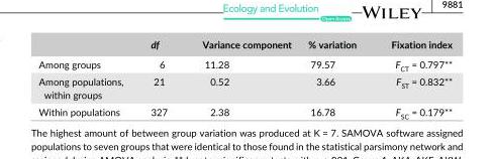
<table><thead><tr><td></td><td>df</td><td>Variance component</td><td>% variation</td><td>Fixation index</td></tr></thead><tbody><tr><td>Among groups</td><td>6</td><td>11.28</td><td>79.57</td><td>F<sub>CT</sub> = 0.797**</td></tr><tr><td>Among populations, within groups</td><td>21</td><td>0.52</td><td>3.66</td><td>F<sub>ST</sub> = 0.832**</td></tr><tr><td>Within populations</td><td>327</td><td>2.38</td><td>16.78</td><td>F<sub>SC</sub> = 0.179**</td></tr></tbody></table>